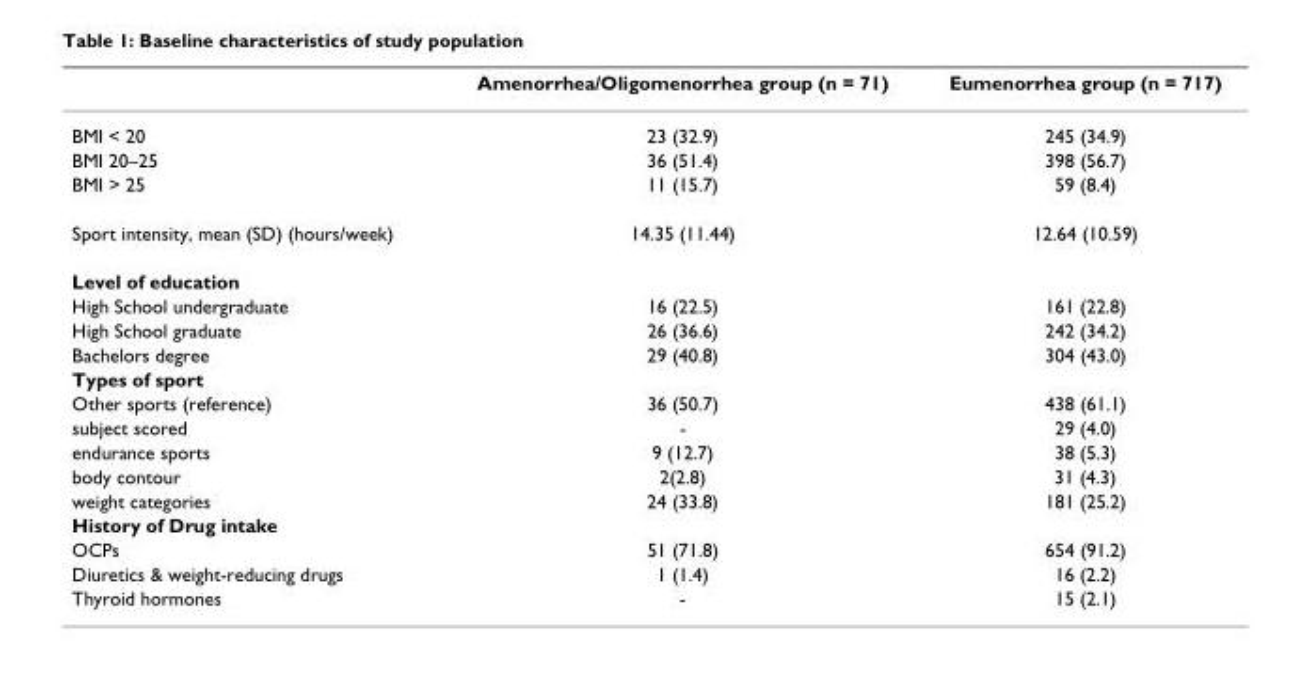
<table><thead><tr><td></td><td>Amenorrhea/Oligomenorrhea group (n = 71)</td><td>Eumenorrhea group (n = 717)</td></tr></thead><tbody><tr><td>BMI &lt; 20</td><td>23 (32.9)</td><td>245 (34.9)</td></tr><tr><td>BMI 20–25</td><td>36 (51.4)</td><td>398 (56.7)</td></tr><tr><td>BMI &gt; 25</td><td>11 (15.7)</td><td>59 (8.4)</td></tr><tr><td>Sport intensity, mean (SD) (hours/week)</td><td>14.35 (11.44)</td><td>12.64 (10.59)</td></tr><tr><td colspan="3">Level of education</td></tr><tr><td>High School undergraduate</td><td>16 (22.5)</td><td>161 (22.8)</td></tr><tr><td>High School graduate</td><td>26 (36.6)</td><td>242 (34.2)</td></tr><tr><td>Bachelors degree</td><td>29 (40.8)</td><td>304 (43.0)</td></tr><tr><td colspan="3">Types of sport</td></tr><tr><td>Other sports (reference)</td><td>36 (50.7)</td><td>438 (61.1)</td></tr><tr><td>subject scored</td><td>-</td><td>29 (4.0)</td></tr><tr><td>endurance sports</td><td>9 (12.7)</td><td>38 (5.3)</td></tr><tr><td>body contour</td><td>2(2.8)</td><td>31 (4.3)</td></tr><tr><td>weight categories</td><td>24 (33.8)</td><td>181 (25.2)</td></tr><tr><td colspan="3">History of Drug intake</td></tr><tr><td>OCPs</td><td>51 (71.8)</td><td>654 (91.2)</td></tr><tr><td>Diuretics &amp; weight-reducing drugs</td><td>1 (1.4)</td><td>16 (2.2)</td></tr><tr><td>Thyroid hormones</td><td>-</td><td>15 (2.1)</td></tr></tbody></table>